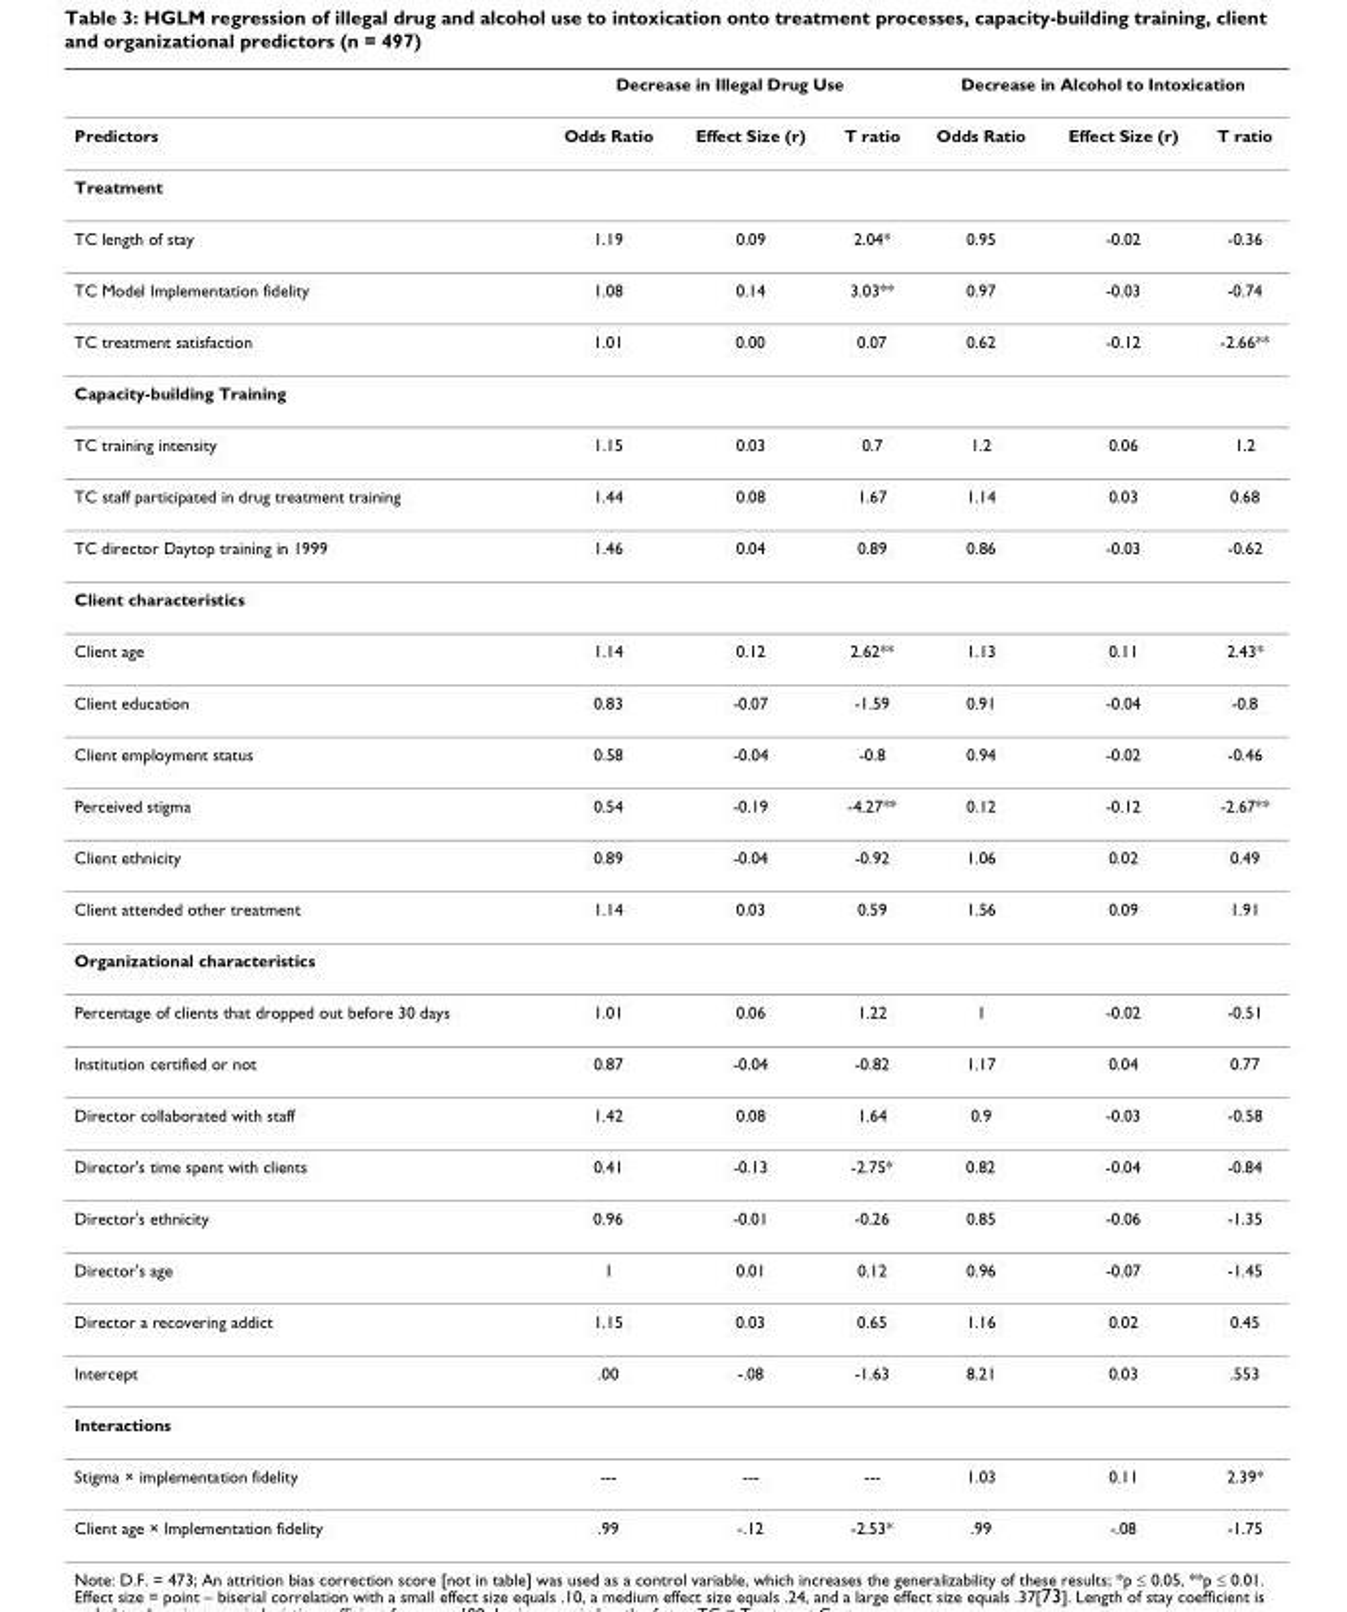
<table><thead><tr><td rowspan="2">Predictors</td><td colspan="3">Decrease in Illegal Drug Use</td><td colspan="3">Decrease in Alcohol to Intoxication</td></tr><tr><td>Odds Ratio</td><td>Effect Size (r)</td><td>T ratio</td><td>Odds Ratio</td><td>Effect Size (r)</td><td>T ratio</td></tr></thead><tbody><tr><td colspan="7">Treatment</td></tr><tr><td>TC length of stay</td><td>1.19</td><td>0.09</td><td>2.04*</td><td>0.95</td><td>-0.02</td><td>-0.36</td></tr><tr><td>TC Model Implementation fidelity</td><td>1.08</td><td>0.14</td><td>3.03**</td><td>0.97</td><td>-0.03</td><td>-0.74</td></tr><tr><td>TC treatment satisfaction</td><td>1.01</td><td>0.00</td><td>0.07</td><td>0.62</td><td>-0.12</td><td>-2.66**</td></tr><tr><td colspan="7">Capacity-building Training</td></tr><tr><td>TC training intensity</td><td>1.15</td><td>0.03</td><td>0.7</td><td>1.2</td><td>0.06</td><td>1.2</td></tr><tr><td>TC staff participated in drug treatment training</td><td>1.44</td><td>0.08</td><td>1.67</td><td>1.14</td><td>0.03</td><td>0.68</td></tr><tr><td>TC director Daytop training in 1999</td><td>1.46</td><td>0.04</td><td>0.89</td><td>0.86</td><td>-0.03</td><td>-0.62</td></tr><tr><td colspan="7">Client characteristics</td></tr><tr><td>Client age</td><td>1.14</td><td>0.12</td><td>2.62**</td><td>1.13</td><td>0.11</td><td>2.43*</td></tr><tr><td>Client education</td><td>0.83</td><td>-0.07</td><td>-1.59</td><td>0.91</td><td>-0.04</td><td>-0.8</td></tr><tr><td>Client employment status</td><td>0.58</td><td>-0.04</td><td>-0.8</td><td>0.94</td><td>-0.02</td><td>-0.46</td></tr><tr><td>Perceived stigma</td><td>0.54</td><td>-0.19</td><td>-4.27**</td><td>0.12</td><td>-0.12</td><td>-2.67**</td></tr><tr><td>Client ethnicity</td><td>0.89</td><td>-0.04</td><td>-0.92</td><td>1.06</td><td>0.02</td><td>0.49</td></tr><tr><td>Client attended other treatment</td><td>1.14</td><td>0.03</td><td>0.59</td><td>1.56</td><td>0.09</td><td>1.91</td></tr><tr><td colspan="7">Organizational characteristics</td></tr><tr><td>Percentage of clients that dropped out before 30 days</td><td>1.01</td><td>0.06</td><td>1.22</td><td>1</td><td>-0.02</td><td>-0.51</td></tr><tr><td>Institution certified or not</td><td>0.87</td><td>-0.04</td><td>-0.82</td><td>1.17</td><td>0.04</td><td>0.77</td></tr><tr><td>Director collaborated with staff</td><td>1.42</td><td>0.08</td><td>1.64</td><td>0.9</td><td>-0.03</td><td>-0.58</td></tr><tr><td>Director&#x27;s time spent with clients</td><td>0.41</td><td>-0.13</td><td>-2.75*</td><td>0.82</td><td>-0.04</td><td>-0.84</td></tr><tr><td>Director&#x27;s ethnicity</td><td>0.96</td><td>-0.01</td><td>-0.26</td><td>0.85</td><td>-0.06</td><td>-1.35</td></tr><tr><td>Director&#x27;s age</td><td>1</td><td>0.01</td><td>0.12</td><td>0.96</td><td>-0.07</td><td>-1.45</td></tr><tr><td>Director a recovering addict</td><td>1.15</td><td>0.03</td><td>0.65</td><td>1.16</td><td>0.02</td><td>0.45</td></tr><tr><td>Intercept</td><td>.00</td><td>-.08</td><td>-1.63</td><td>8.21</td><td>0.03</td><td>.553</td></tr><tr><td colspan="7">Interactions</td></tr><tr><td>Stigma × implementation fidelity</td><td>---</td><td>---</td><td>---</td><td>1.03</td><td>0.11</td><td>2.39*</td></tr><tr><td>Client age × Implementation fidelity</td><td>.99</td><td>-.12</td><td>-2.53*</td><td>.99</td><td>-.08</td><td>-1.75</td></tr></tbody></table>